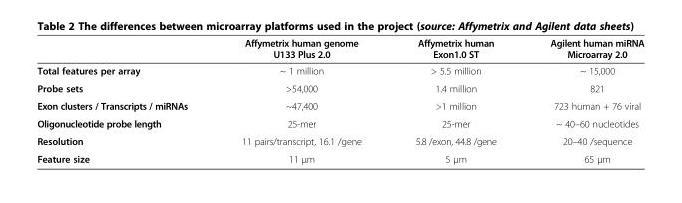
<table><thead><tr><td></td><td>Affymetrix human genome U133 Plus 2.0</td><td>Affymetrix human Exon1.0 ST</td><td>Agilent human miRNA Microarray 2.0</td></tr></thead><tbody><tr><td>Total features per array</td><td>~ 1 million</td><td>&gt; 5.5 million</td><td>~ 15,000</td></tr><tr><td>Probe sets</td><td>&gt;54,000</td><td>1.4 million</td><td>821</td></tr><tr><td>Exon clusters / Transcripts / miRNAs</td><td>~47,400</td><td>&gt;1 million</td><td>723 human + 76 viral</td></tr><tr><td>Oligonucleotide probe length</td><td>25-mer</td><td>25-mer</td><td>~ 40–60 nucleotides</td></tr><tr><td>Resolution</td><td>11 pairs/transcript, 16.1 /gene</td><td>5.8 /exon, 44.8 /gene</td><td>20–40 /sequence</td></tr><tr><td>Feature size</td><td>11 μm</td><td>5 μm</td><td>65 μm</td></tr></tbody></table>